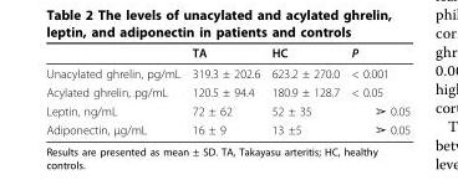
<table><thead><tr><td></td><td>TA</td><td>HC</td><td>P</td></tr></thead><tbody><tr><td>Unacylated ghrelin, pg/mL</td><td>319.3 ± 202.6</td><td>623.2 ± 270.0</td><td>&lt; 0.001</td></tr><tr><td>Acylated ghrelin, pg/mL</td><td>120.5 ± 94.4</td><td>180.9 ± 128.7</td><td>&lt; 0.05</td></tr><tr><td>Leptin, ng/mL</td><td>72 ± 62</td><td>52 ± 35</td><td>➢ 0.05</td></tr><tr><td>Adiponectin, µg/mL</td><td>16 ± 9</td><td>13 ±5</td><td>➢ 0.05</td></tr></tbody></table>